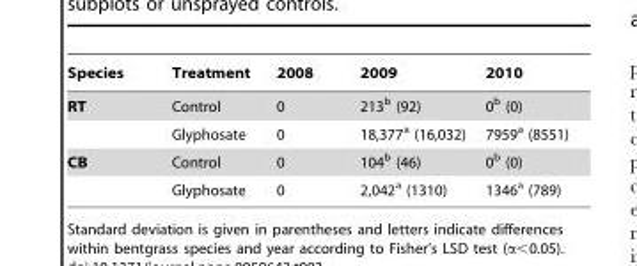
<table><thead><tr><td>Species</td><td>Treatment</td><td>2008</td><td>2009</td><td>2010</td></tr></thead><tbody><tr><td rowspan="2">RT</td><td>Control</td><td>0</td><td>213<sup>b</sup> (92)</td><td>0<sup>b</sup> (0)</td></tr><tr><td>Glyphosate</td><td>0</td><td>18,377<sup>a</sup> (16,032)</td><td>7959<sup>a</sup> (8551)</td></tr><tr><td rowspan="2">CB</td><td>Control</td><td>0</td><td>104<sup>b</sup> (46)</td><td>0<sup>b</sup> (0)</td></tr><tr><td>Glyphosate</td><td>0</td><td>2,042<sup>a</sup> (1310)</td><td>1346<sup>a</sup> (789)</td></tr></tbody></table>